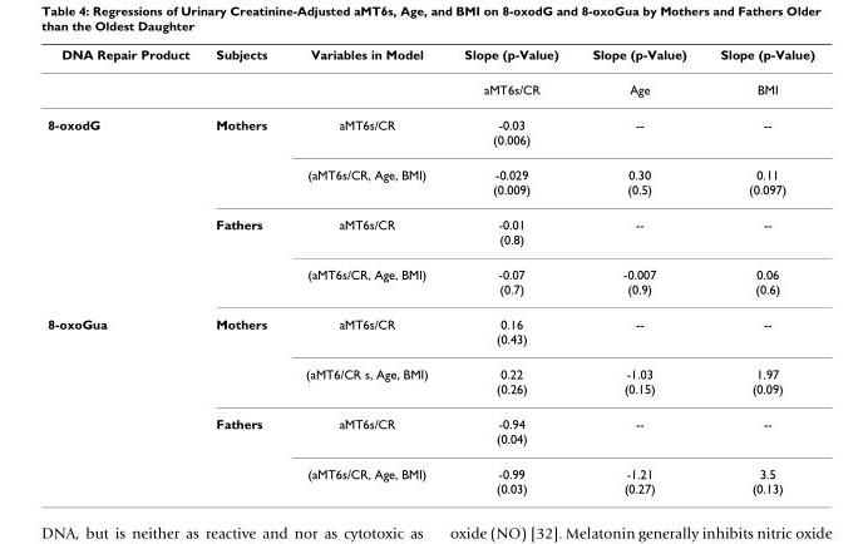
<table><thead><tr><td>DNA Repair Product</td><td>Subjects</td><td>Variables in Model</td><td>Slope (p-Value)</td><td>Slope (p-Value)</td><td>Slope (p-Value)</td></tr></thead><tbody><tr><td></td><td></td><td></td><td>aMT6s/CR</td><td>Age</td><td>BMI</td></tr><tr><td rowspan="4">8-oxodG</td><td>Mothers</td><td>aMT6s/CR</td><td>-0.03 (0.006)</td><td>--</td><td>--</td></tr><tr><td></td><td>(aMT6s/CR, Age, BMI)</td><td>-0.029 (0.009)</td><td>0.30 (0.5)</td><td>0.11 (0.097)</td></tr><tr><td>Fathers</td><td>aMT6s/CR</td><td>-0.01 (0.8)</td><td>--</td><td>--</td></tr><tr><td></td><td>(aMT6s/CR, Age, BMI)</td><td>-0.07 (0.7)</td><td>-0.007 (0.9)</td><td>0.06 (0.6)</td></tr><tr><td rowspan="4">8-oxoGua</td><td>Mothers</td><td>aMT6s/CR</td><td>0.16 (0.43)</td><td>--</td><td>--</td></tr><tr><td></td><td>(aMT6/CR s, Age, BMI)</td><td>0.22 (0.26)</td><td>-1.03 (0.15)</td><td>1.97 (0.09)</td></tr><tr><td>Fathers</td><td>aMT6s/CR</td><td>-0.94 (0.04)</td><td>--</td><td>--</td></tr><tr><td></td><td>(aMT6s/CR, Age, BMI)</td><td>-0.99 (0.03)</td><td>-1.21 (0.27)</td><td>3.5 (0.13)</td></tr></tbody></table>